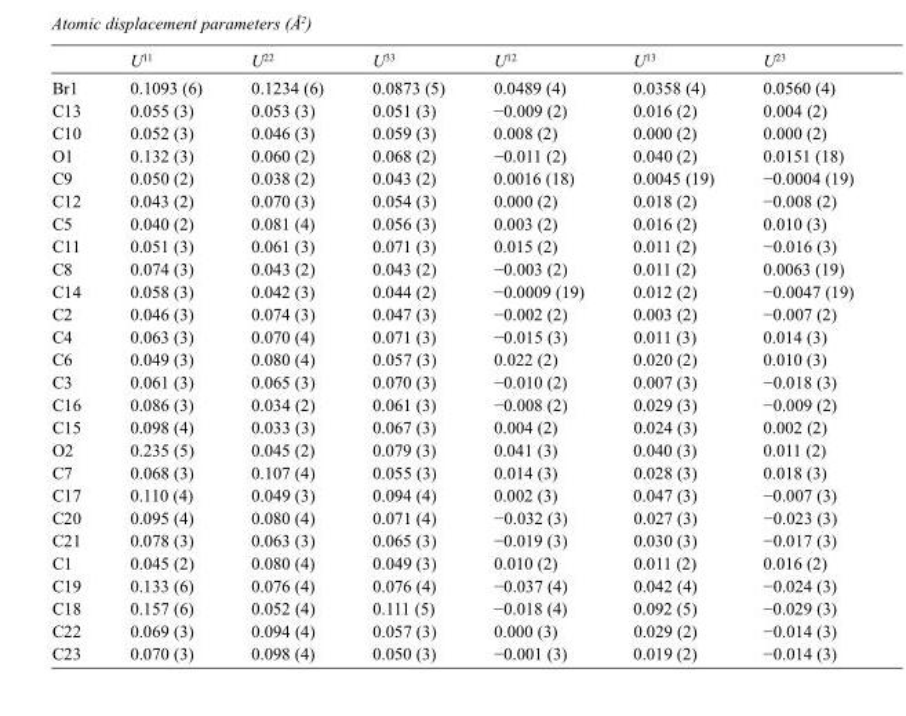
<table><thead><tr><td></td><td>U<sup>11</sup></td><td>U<sup>22</sup></td><td>U<sup>33</sup></td><td>U<sup>12</sup></td><td>U<sup>13</sup></td><td>U<sup>23</sup></td></tr></thead><tbody><tr><td>Br1</td><td>0.1093 (6)</td><td>0.1234 (6)</td><td>0.0873 (5)</td><td>0.0489 (4)</td><td>0.0358 (4)</td><td>0.0560 (4)</td></tr><tr><td>C13</td><td>0.055 (3)</td><td>0.053 (3)</td><td>0.051 (3)</td><td>−0.009 (2)</td><td>0.016 (2)</td><td>0.004 (2)</td></tr><tr><td>C10</td><td>0.052 (3)</td><td>0.046 (3)</td><td>0.059 (3)</td><td>0.008 (2)</td><td>0.000 (2)</td><td>0.000 (2)</td></tr><tr><td>O1</td><td>0.132 (3)</td><td>0.060 (2)</td><td>0.068 (2)</td><td>−0.011 (2)</td><td>0.040 (2)</td><td>0.0151 (18)</td></tr><tr><td>C9</td><td>0.050 (2)</td><td>0.038 (2)</td><td>0.043 (2)</td><td>0.0016 (18)</td><td>0.0045 (19)</td><td>−0.0004 (19)</td></tr><tr><td>C12</td><td>0.043 (2)</td><td>0.070 (3)</td><td>0.054 (3)</td><td>0.000 (2)</td><td>0.018 (2)</td><td>−0.008 (2)</td></tr><tr><td>C5</td><td>0.040 (2)</td><td>0.081 (4)</td><td>0.056 (3)</td><td>0.003 (2)</td><td>0.016 (2)</td><td>0.010 (3)</td></tr><tr><td>C11</td><td>0.051 (3)</td><td>0.061 (3)</td><td>0.071 (3)</td><td>0.015 (2)</td><td>0.011 (2)</td><td>−0.016 (3)</td></tr><tr><td>C8</td><td>0.074 (3)</td><td>0.043 (2)</td><td>0.043 (2)</td><td>−0.003 (2)</td><td>0.011 (2)</td><td>0.0063 (19)</td></tr><tr><td>C14</td><td>0.058 (3)</td><td>0.042 (3)</td><td>0.044 (2)</td><td>−0.0009 (19)</td><td>0.012 (2)</td><td>−0.0047 (19)</td></tr><tr><td>C2</td><td>0.046 (3)</td><td>0.074 (3)</td><td>0.047 (3)</td><td>−0.002 (2)</td><td>0.003 (2)</td><td>−0.007 (2)</td></tr><tr><td>C4</td><td>0.063 (3)</td><td>0.070 (4)</td><td>0.071 (3)</td><td>−0.015 (3)</td><td>0.011 (3)</td><td>0.014 (3)</td></tr><tr><td>C6</td><td>0.049 (3)</td><td>0.080 (4)</td><td>0.057 (3)</td><td>0.022 (2)</td><td>0.020 (2)</td><td>0.010 (3)</td></tr><tr><td>C3</td><td>0.061 (3)</td><td>0.065 (3)</td><td>0.070 (3)</td><td>−0.010 (2)</td><td>0.007 (3)</td><td>−0.018 (3)</td></tr><tr><td>C16</td><td>0.086 (3)</td><td>0.034 (2)</td><td>0.061 (3)</td><td>−0.008 (2)</td><td>0.029 (3)</td><td>−0.009 (2)</td></tr><tr><td>C15</td><td>0.098 (4)</td><td>0.033 (3)</td><td>0.067 (3)</td><td>0.004 (2)</td><td>0.024 (3)</td><td>0.002 (2)</td></tr><tr><td>O2</td><td>0.235 (5)</td><td>0.045 (2)</td><td>0.079 (3)</td><td>0.041 (3)</td><td>0.040 (3)</td><td>0.011 (2)</td></tr><tr><td>C7</td><td>0.068 (3)</td><td>0.107 (4)</td><td>0.055 (3)</td><td>0.014 (3)</td><td>0.028 (3)</td><td>0.018 (3)</td></tr><tr><td>C17</td><td>0.110 (4)</td><td>0.049 (3)</td><td>0.094 (4)</td><td>0.002 (3)</td><td>0.047 (3)</td><td>−0.007 (3)</td></tr><tr><td>C20</td><td>0.095 (4)</td><td>0.080 (4)</td><td>0.071 (4)</td><td>−0.032 (3)</td><td>0.027 (3)</td><td>−0.023 (3)</td></tr><tr><td>C21</td><td>0.078 (3)</td><td>0.063 (3)</td><td>0.065 (3)</td><td>−0.019 (3)</td><td>0.030 (3)</td><td>−0.017 (3)</td></tr><tr><td>C1</td><td>0.045 (2)</td><td>0.080 (4)</td><td>0.049 (3)</td><td>0.010 (2)</td><td>0.011 (2)</td><td>0.016 (2)</td></tr><tr><td>C19</td><td>0.133 (6)</td><td>0.076 (4)</td><td>0.076 (4)</td><td>−0.037 (4)</td><td>0.042 (4)</td><td>−0.024 (3)</td></tr><tr><td>C18</td><td>0.157 (6)</td><td>0.052 (4)</td><td>0.111 (5)</td><td>−0.018 (4)</td><td>0.092 (5)</td><td>−0.029 (3)</td></tr><tr><td>C22</td><td>0.069 (3)</td><td>0.094 (4)</td><td>0.057 (3)</td><td>0.000 (3)</td><td>0.029 (2)</td><td>−0.014 (3)</td></tr><tr><td>C23</td><td>0.070 (3)</td><td>0.098 (4)</td><td>0.050 (3)</td><td>−0.001 (3)</td><td>0.019 (2)</td><td>−0.014 (3)</td></tr></tbody></table>